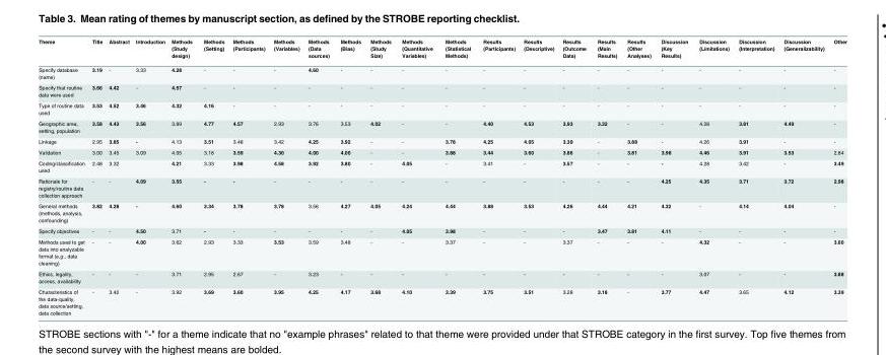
<table><thead><tr><td>Theme</td><td>Title</td><td>Abstract</td><td>Introduction</td><td>Methods (Study design)</td><td>Methods (Setting)</td><td>Methods (Participants)</td><td>Methods (Variables)</td><td>Methods (Data sources)</td><td>Methods (Bias)</td><td>Methods (Study Size)</td><td>Methods (Quantitative Variables)</td><td>Methods (Statistical Methods)</td><td>Results (Participants)</td><td>Results (Descriptive)</td><td>Results (Outcome Data)</td><td>Results (Main Results)</td><td>Results (Other Analyses)</td><td>Discussion (Key Results)</td><td>Discussion (Limitations)</td><td>Discussion (Interpretation)</td><td>Discussion (Generalizability)</td><td>Other</td></tr></thead><tbody><tr><td>Specify database (name)</td><td>3.19</td><td>-</td><td>3.33</td><td>4.28</td><td>-</td><td>-</td><td>-</td><td>4.60</td><td>-</td><td>-</td><td>-</td><td>-</td><td>-</td><td>-</td><td>-</td><td>-</td><td>-</td><td>-</td><td>-</td><td>-</td><td>-</td><td>-</td></tr><tr><td>Specify that routine data were used</td><td>3.66</td><td>4.42</td><td>-</td><td>4.57</td><td>-</td><td>-</td><td>-</td><td>-</td><td>-</td><td>-</td><td>-</td><td>-</td><td>-</td><td>-</td><td>-</td><td>-</td><td>-</td><td>-</td><td>-</td><td>-</td><td>-</td><td>-</td></tr><tr><td>Type of routine data used</td><td>3.53</td><td>4.52</td><td>3.46</td><td>4.32</td><td>4.16</td><td>-</td><td>-</td><td>-</td><td>-</td><td>-</td><td>-</td><td>-</td><td>-</td><td>-</td><td>-</td><td>-</td><td>-</td><td>-</td><td>-</td><td>-</td><td>-</td><td>-</td></tr><tr><td>Geographic area, setting, population</td><td>3.58</td><td>4.43</td><td>3.56</td><td>3.89</td><td>4.77</td><td>4.57</td><td>2.93</td><td>3.76</td><td>3.53</td><td>4.02</td><td>-</td><td>-</td><td>4.40</td><td>4.53</td><td>3.93</td><td>3.32</td><td>-</td><td>-</td><td>4.28</td><td>3.81</td><td>4.49</td><td>-</td></tr><tr><td>Linkage</td><td>2.95</td><td>3.85</td><td>-</td><td>4.13</td><td>3.51</td><td>3.48</td><td>3.42</td><td>4.25</td><td>3.92</td><td>-</td><td>-</td><td>3.78</td><td>4.25</td><td>4.05</td><td>3.39</td><td>-</td><td>3.88</td><td>-</td><td>4.26</td><td>3.91</td><td>-</td><td>-</td></tr><tr><td>Validation</td><td>3.00</td><td>3.45</td><td>3.09</td><td>4.05</td><td>3.18</td><td>3.59</td><td>4.30</td><td>4.00</td><td>4.00</td><td>-</td><td>-</td><td>3.88</td><td>3.44</td><td>3.60</td><td>3.86</td><td>-</td><td>3.81</td><td>3.98</td><td>4.46</td><td>3.91</td><td>3.53</td><td>2.84</td></tr><tr><td>Coding/classification used</td><td>2.48</td><td>3.32</td><td></td><td>4.21</td><td>3.33</td><td>3.98</td><td>4.58</td><td>3.92</td><td>3.80</td><td>-</td><td>4.05</td><td>-</td><td>3.41</td><td>-</td><td>3.57</td><td>-</td><td>-</td><td>-</td><td>4.28</td><td>3.42</td><td>-</td><td>3.49</td></tr><tr><td>Rationale for registry/routine data collection approach</td><td>-</td><td>-</td><td>4.09</td><td>3.55</td><td>-</td><td>-</td><td>-</td><td>-</td><td>-</td><td>-</td><td>-</td><td>-</td><td>-</td><td>-</td><td>-</td><td>-</td><td>-</td><td>4.25</td><td>4.35</td><td>3.71</td><td>3.72</td><td>2.98</td></tr><tr><td>General methods (methods, analysis, confounding)</td><td>3.82</td><td>4.28</td><td>-</td><td>4.60</td><td>3.34</td><td>3.78</td><td>3.78</td><td>3.56</td><td>4.27</td><td>4.05</td><td>4.24</td><td>4.44</td><td>3.88</td><td>3.53</td><td>4.26</td><td>4.44</td><td>4.21</td><td>4.32</td><td>-</td><td>4.14</td><td>4.04</td><td>-</td></tr><tr><td>Specify objectives</td><td>-</td><td>-</td><td>4.50</td><td>3.71</td><td>-</td><td>-</td><td>-</td><td>-</td><td>-</td><td>-</td><td>4.05</td><td>3.98</td><td>-</td><td>-</td><td>-</td><td>3.47</td><td>3.81</td><td>4.11</td><td>-</td><td>-</td><td>-</td><td>-</td></tr><tr><td>Methods used to get data into analyzable format (e.g., data cleaning)</td><td>-</td><td>-</td><td>4.00</td><td>3.62</td><td>2.93</td><td>3.33</td><td>3.53</td><td>3.59</td><td>3.48</td><td>-</td><td>-</td><td>3.37</td><td>-</td><td>-</td><td>3.37</td><td>-</td><td>-</td><td>-</td><td>4.32</td><td>-</td><td>-</td><td>3.60</td></tr><tr><td>Ethics, legality, access, availability</td><td>-</td><td>-</td><td>-</td><td>3.71</td><td>2.95</td><td>2.67</td><td>-</td><td>3.23</td><td>-</td><td>-</td><td>-</td><td>-</td><td>-</td><td>-</td><td>-</td><td>-</td><td>-</td><td>-</td><td>3.07</td><td>-</td><td>-</td><td>3.88</td></tr><tr><td>Characteristics of the data-quality, data source/setting, data collection</td><td>-</td><td>3.42</td><td>-</td><td>3.92</td><td>3.69</td><td>3.60</td><td>3.95</td><td>4.25</td><td>4.17</td><td>3.68</td><td>4.10</td><td>3.39</td><td>3.75</td><td>3.51</td><td>3.28</td><td>3.18</td><td>-</td><td>3.77</td><td>4.47</td><td>3.65</td><td>4.12</td><td>3.39</td></tr></tbody></table>